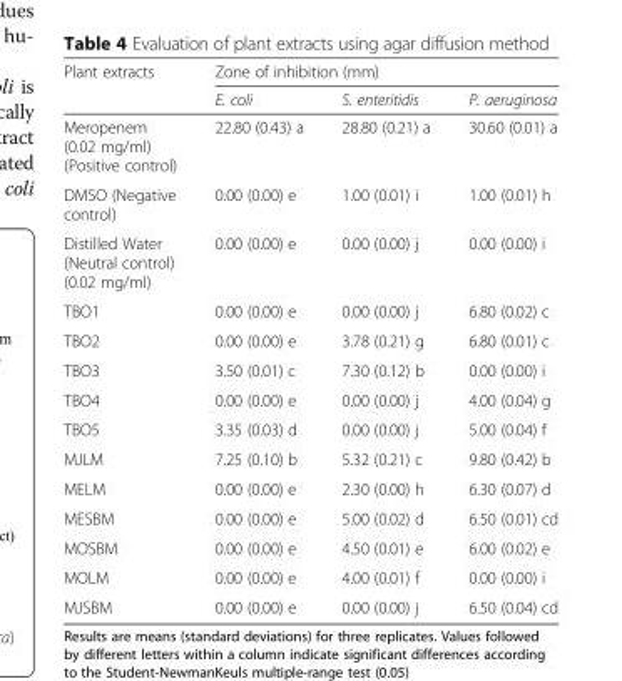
<table><thead><tr><td rowspan="2">Plant extracts</td><td colspan="3">Zone of inhibition (mm)</td></tr><tr><td>E. coli</td><td>S. enteritidis</td><td>P. aeruginosa</td></tr></thead><tbody><tr><td>Meropenem (0.02 mg/ml) (Positive control)</td><td>22.80 (0.43) a</td><td>28.80 (0.21) a</td><td>30.60 (0.01) a</td></tr><tr><td>DMSO (Negative control)</td><td>0.00 (0.00) e</td><td>1.00 (0.01) i</td><td>1.00 (0.01) h</td></tr><tr><td>Distilled Water (Neutral control) (0.02 mg/ml)</td><td>0.00 (0.00) e</td><td>0.00 (0.00) j</td><td>0.00 (0.00) i</td></tr><tr><td>TBO1</td><td>0.00 (0.00) e</td><td>0.00 (0.00) j</td><td>6.80 (0.02) c</td></tr><tr><td>TBO2</td><td>0.00 (0.00) e</td><td>3.78 (0.21) g</td><td>6.80 (0.01) c</td></tr><tr><td>TBO3</td><td>3.50 (0.01) c</td><td>7.30 (0.12) b</td><td>0.00 (0.00) i</td></tr><tr><td>TBO4</td><td>0.00 (0.00) e</td><td>0.00 (0.00) j</td><td>4.00 (0.04) g</td></tr><tr><td>TBO5</td><td>3.35 (0.03) d</td><td>0.00 (0.00) j</td><td>5.00 (0.04) f</td></tr><tr><td>MJLM</td><td>7.25 (0.10) b</td><td>5.32 (0.21) c</td><td>9.80 (0.42) b</td></tr><tr><td>MELM</td><td>0.00 (0.00) e</td><td>2.30 (0.00) h</td><td>6.30 (0.07) d</td></tr><tr><td>MESBM</td><td>0.00 (0.00) e</td><td>5.00 (0.02) d</td><td>6.50 (0.01) cd</td></tr><tr><td>MOSBM</td><td>0.00 (0.00) e</td><td>4.50 (0.01) e</td><td>6.00 (0.02) e</td></tr><tr><td>MOLM</td><td>0.00 (0.00) e</td><td>4.00 (0.01) f</td><td>0.00 (0.00) i</td></tr><tr><td>MJSBM</td><td>0.00 (0.00) e</td><td>0.00 (0.00) j</td><td>6.50 (0.04) cd</td></tr></tbody></table>